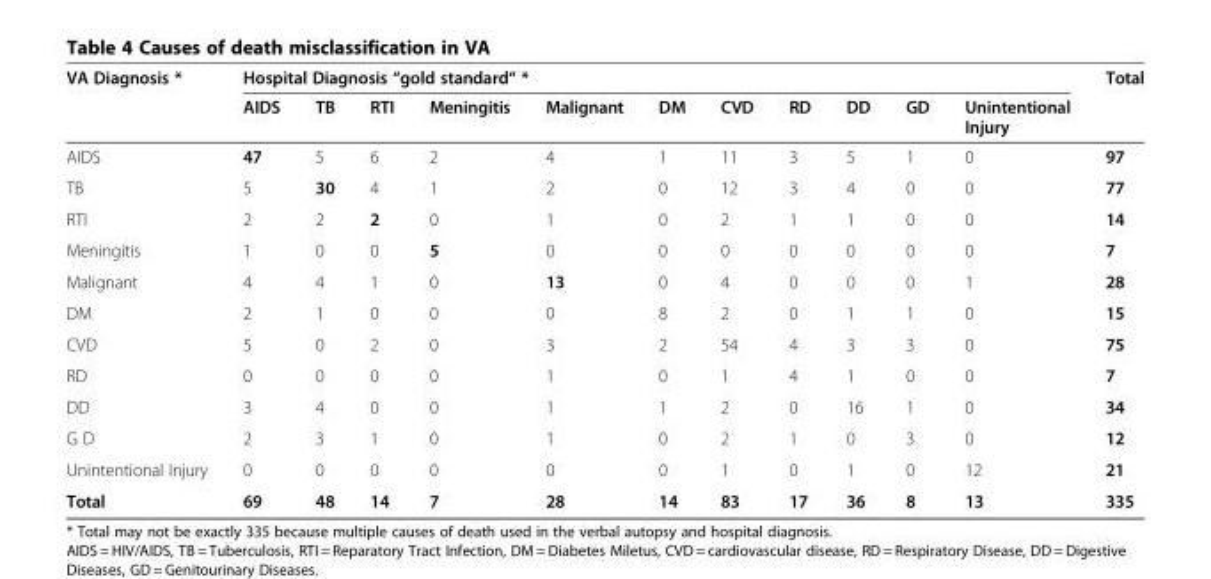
<table><thead><tr><td rowspan="2">VA Diagnosis *</td><td colspan="11">Hospital Diagnosis “gold standard“ *</td><td rowspan="2">Total</td></tr><tr><td>AIDS</td><td>TB</td><td>RTI</td><td>Meningitis</td><td>Malignant</td><td>DM</td><td>CVD</td><td>RD</td><td>DD</td><td>GD</td><td>Unintentional Injury</td></tr></thead><tbody><tr><td>AIDS</td><td>47</td><td>5</td><td>6</td><td>2</td><td>4</td><td>1</td><td>11</td><td>3</td><td>5</td><td>1</td><td>0</td><td>97</td></tr><tr><td>TB</td><td>5</td><td>30</td><td>4</td><td>1</td><td>2</td><td>0</td><td>12</td><td>3</td><td>4</td><td>0</td><td>0</td><td>77</td></tr><tr><td>RTI</td><td>2</td><td>2</td><td>2</td><td>0</td><td>1</td><td>0</td><td>2</td><td>1</td><td>1</td><td>0</td><td>0</td><td>14</td></tr><tr><td>Meningitis</td><td>1</td><td>0</td><td>0</td><td>5</td><td>0</td><td>0</td><td>0</td><td>0</td><td>0</td><td>0</td><td>0</td><td>7</td></tr><tr><td>Malignant</td><td>4</td><td>4</td><td>1</td><td>0</td><td>13</td><td>0</td><td>4</td><td>0</td><td>0</td><td>0</td><td>1</td><td>28</td></tr><tr><td>DM</td><td>2</td><td>1</td><td>0</td><td>0</td><td>0</td><td>8</td><td>2</td><td>0</td><td>1</td><td>1</td><td>0</td><td>15</td></tr><tr><td>CVD</td><td>5</td><td>0</td><td>2</td><td>0</td><td>3</td><td>2</td><td>54</td><td>4</td><td>3</td><td>3</td><td>0</td><td>75</td></tr><tr><td>RD</td><td>0</td><td>0</td><td>0</td><td>0</td><td>1</td><td>0</td><td>1</td><td>4</td><td>1</td><td>0</td><td>0</td><td>7</td></tr><tr><td>DD</td><td>3</td><td>4</td><td>0</td><td>0</td><td>1</td><td>1</td><td>2</td><td>0</td><td>16</td><td>1</td><td>0</td><td>34</td></tr><tr><td>G D</td><td>2</td><td>3</td><td>1</td><td>0</td><td>1</td><td>0</td><td>2</td><td>1</td><td>0</td><td>3</td><td>0</td><td>12</td></tr><tr><td>Unintentional Injury</td><td>0</td><td>0</td><td>0</td><td>0</td><td>0</td><td>0</td><td>1</td><td>0</td><td>1</td><td>0</td><td>12</td><td>21</td></tr><tr><td>Total</td><td>69</td><td>48</td><td>14</td><td>7</td><td>28</td><td>14</td><td>83</td><td>17</td><td>36</td><td>8</td><td>13</td><td>335</td></tr></tbody></table>